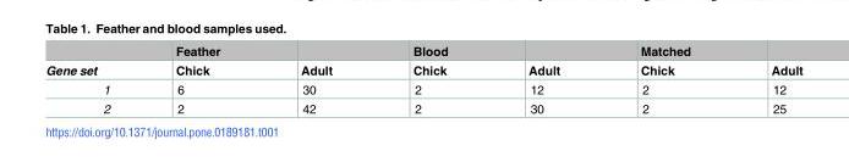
<table><thead><tr><td rowspan="2">Gene set</td><td rowspan="2">Feather Chick</td><td rowspan="2">Adult</td><td rowspan="2">Blood Chick</td><td rowspan="2">Adult</td><td rowspan="2">Matched Chick</td><td rowspan="2">Adult</td></tr><tr></tr></thead><tbody><tr><td>1</td><td>6</td><td>30</td><td>2</td><td>12</td><td>2</td><td>12</td></tr><tr><td>2</td><td>2</td><td>42</td><td>2</td><td>30</td><td>2</td><td>25</td></tr></tbody></table>